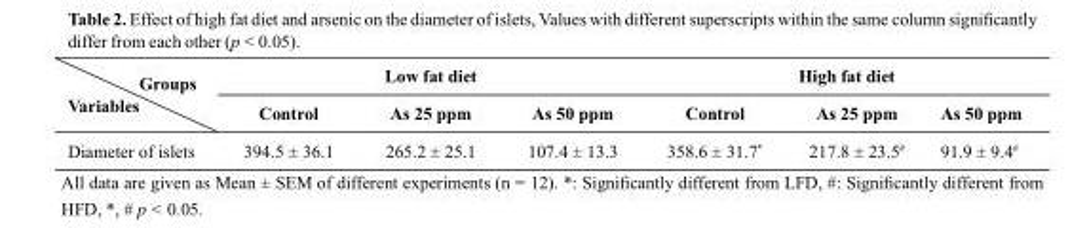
<table><thead><tr><td rowspan="2">Groups Variables</td><td colspan="3">Low fat diet</td><td colspan="3">High fat diet</td></tr><tr><td>Control</td><td>As 25 ppm</td><td>As 50 ppm</td><td>Control</td><td>As 25 ppm</td><td>As 50 ppm</td></tr></thead><tbody><tr><td>Diameter of islets</td><td>394.5 ± 36.1</td><td>265.2 ± 25.1</td><td>107.4 ± 13.3</td><td>358.6 ± 31.7*</td><td>217.8 ± 23.5#</td><td>91.9 ± 9.4#</td></tr></tbody></table>